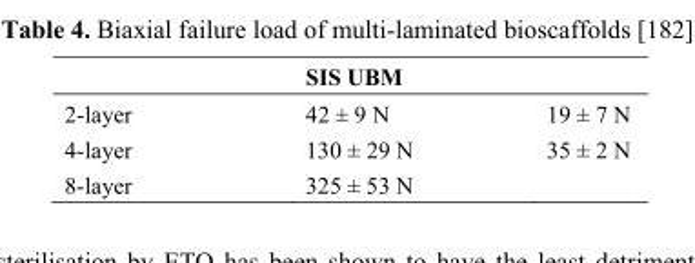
<table><thead><tr><td></td><td>SIS UBM</td><td></td></tr></thead><tbody><tr><td>2-layer</td><td>42 ± 9 N</td><td>19 ± 7 N</td></tr><tr><td>4-layer</td><td>130 ± 29 N</td><td>35 ± 2 N</td></tr><tr><td>8-layer</td><td>325 ± 53 N</td><td></td></tr></tbody></table>